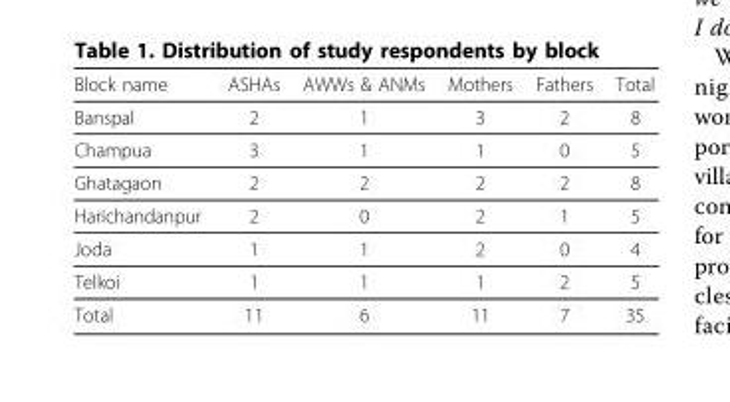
<table><thead><tr><td>Block name</td><td>ASHAs</td><td>AWWs &amp; ANMs</td><td>Mothers</td><td>Fathers</td><td>Total</td></tr></thead><tbody><tr><td>Banspal</td><td>2</td><td>1</td><td>3</td><td>2</td><td>8</td></tr><tr><td>Champua</td><td>3</td><td>1</td><td>1</td><td>0</td><td>5</td></tr><tr><td>Ghatagaon</td><td>2</td><td>2</td><td>2</td><td>2</td><td>8</td></tr><tr><td>Harichandanpur</td><td>2</td><td>0</td><td>2</td><td>1</td><td>5</td></tr><tr><td>Joda</td><td>1</td><td>1</td><td>2</td><td>0</td><td>4</td></tr><tr><td>Telkoi</td><td>1</td><td>1</td><td>1</td><td>2</td><td>5</td></tr><tr><td>Total</td><td>11</td><td>6</td><td>11</td><td>7</td><td>35</td></tr></tbody></table>